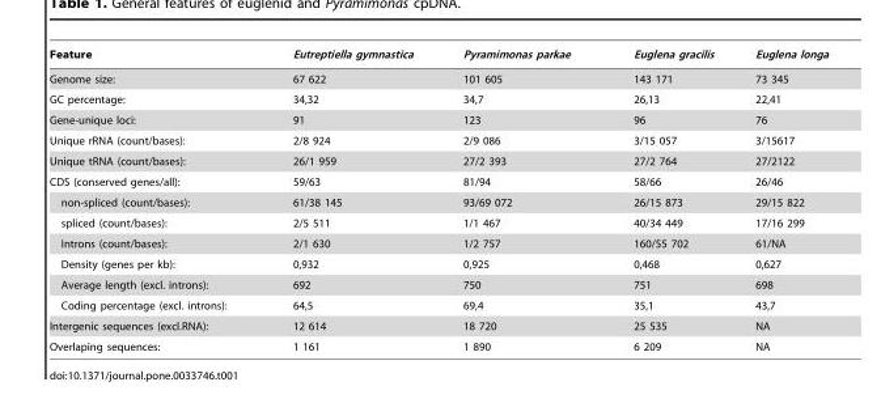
<table><thead><tr><td>Feature</td><td>Eutreptiella gymnastica</td><td>Pyramimonas parkae</td><td>Euglena gracilis</td><td>Euglena longa</td></tr></thead><tbody><tr><td>Genome size:</td><td>67 622</td><td>101 605</td><td>143 171</td><td>73 345</td></tr><tr><td>GC percentage:</td><td>34,32</td><td>34,7</td><td>26,13</td><td>22,41</td></tr><tr><td>Gene-unique loci:</td><td>91</td><td>123</td><td>96</td><td>76</td></tr><tr><td>Unique rRNA (count/bases):</td><td>2/8 924</td><td>2/9 086</td><td>3/15 057</td><td>3/15617</td></tr><tr><td>Unique tRNA (count/bases):</td><td>26/1 959</td><td>27/2 393</td><td>27/2 764</td><td>27/2122</td></tr><tr><td>CDS (conserved genes/all):</td><td>59/63</td><td>81/94</td><td>58/66</td><td>26/46</td></tr><tr><td>non-spliced (count/bases):</td><td>61/38 145</td><td>93/69 072</td><td>26/15 873</td><td>29/15 822</td></tr><tr><td>spliced (count/bases):</td><td>2/5 511</td><td>1/1 467</td><td>40/34 449</td><td>17/16 299</td></tr><tr><td>Introns (count/bases):</td><td>2/1 630</td><td>1/2 757</td><td>160/55 702</td><td>61/NA</td></tr><tr><td>Density (genes per kb):</td><td>0,932</td><td>0,925</td><td>0,468</td><td>0,627</td></tr><tr><td>Average length (excl. introns):</td><td>692</td><td>750</td><td>751</td><td>698</td></tr><tr><td>Coding percentage (excl. introns):</td><td>64,5</td><td>69,4</td><td>35,1</td><td>43,7</td></tr><tr><td>Intergenic sequences (excl.RNA):</td><td>12 614</td><td>18 720</td><td>25 535</td><td>NA</td></tr><tr><td>Overlaping sequences:</td><td>1 161</td><td>1 890</td><td>6 209</td><td>NA</td></tr></tbody></table>